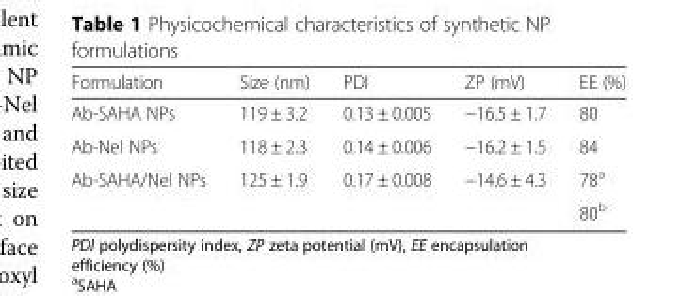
<table><thead><tr><td>Formulation</td><td>Size (nm)</td><td>PDI</td><td>ZP (mV)</td><td>EE (%)</td></tr></thead><tbody><tr><td>Ab-SAHA NPs</td><td>119 ± 3.2</td><td>0.13 ± 0.005</td><td>−16.5 ± 1.7</td><td>80</td></tr><tr><td>Ab-Nel NPs</td><td>118 ± 2.3</td><td>0.14 ± 0.006</td><td>−16.2 ± 1.5</td><td>84</td></tr><tr><td rowspan="2">Ab-SAHA/Nel NPs</td><td>125 ± 1.9</td><td>0.17 ± 0.008</td><td>−14.6 ± 4.3</td><td>78<sup>a</sup></td></tr><tr><td></td><td></td><td></td><td>80<sup>b</sup></td></tr></tbody></table>